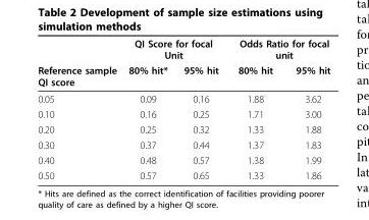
<table><thead><tr><td rowspan="2">Reference sample QI score</td><td colspan="2">QI Score for focal Unit</td><td colspan="2">Odds Ratio for focal unit</td></tr><tr><td>80% hit*</td><td>95% hit</td><td>80% hit</td><td>95% hit</td></tr></thead><tbody><tr><td>0.05</td><td>0.09</td><td>0.16</td><td>1.88</td><td>3.62</td></tr><tr><td>0.10</td><td>0.16</td><td>0.25</td><td>1.71</td><td>3.00</td></tr><tr><td>0.20</td><td>0.25</td><td>0.32</td><td>1.33</td><td>1.88</td></tr><tr><td>0.30</td><td>0.37</td><td>0.44</td><td>1.37</td><td>1.83</td></tr><tr><td>0.40</td><td>0.48</td><td>0.57</td><td>1.38</td><td>1.99</td></tr><tr><td>0.50</td><td>0.57</td><td>0.65</td><td>1.33</td><td>1.86</td></tr></tbody></table>